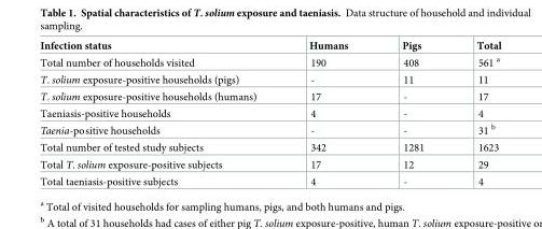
<table><thead><tr><td>Infection status</td><td>Humans</td><td>Pigs</td><td>Total</td></tr></thead><tbody><tr><td>Total number of households visited</td><td>190</td><td>408</td><td>561 <sup>a</sup></td></tr><tr><td>T. solium exposure-positive households (pigs)</td><td>-</td><td>11</td><td>11</td></tr><tr><td>T. solium exposure-positive households (humans)</td><td>17</td><td>-</td><td>17</td></tr><tr><td>Taeniasis-positive households</td><td>4</td><td>-</td><td>4</td></tr><tr><td>Taenia-positive households</td><td>-</td><td>-</td><td>31 <sup>b</sup></td></tr><tr><td>Total number of tested study subjects</td><td>342</td><td>1281</td><td>1623</td></tr><tr><td>Total T. solium exposure-positive subjects</td><td>17</td><td>12</td><td>29</td></tr><tr><td>Total taeniasis-positive subjects</td><td>4</td><td>-</td><td>4</td></tr></tbody></table>